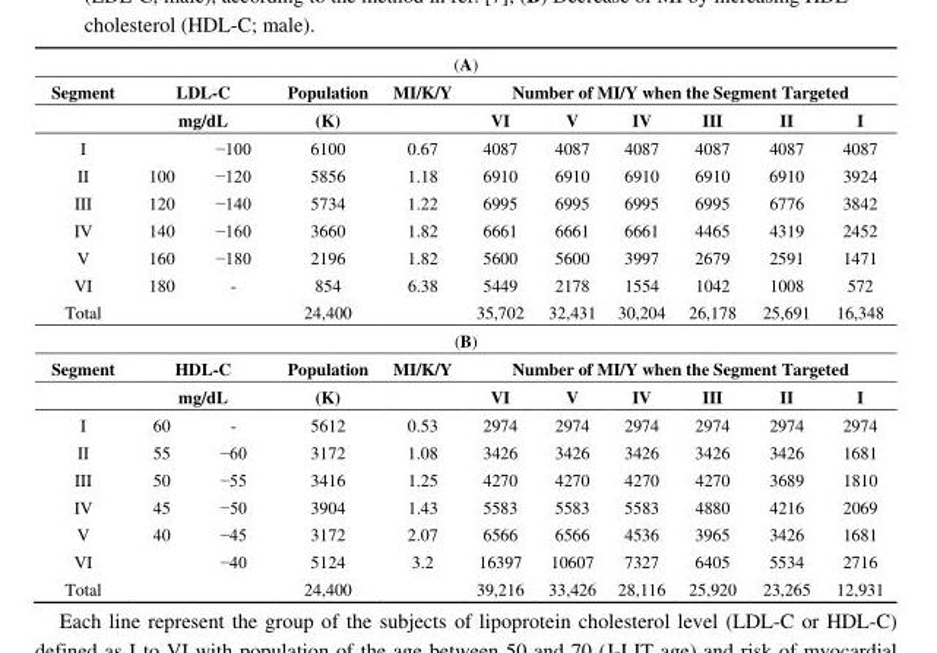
<table><thead><tr><td colspan="11">(A)</td></tr><tr><td rowspan="3">Segment I</td><td rowspan="2" colspan="2">LDL-C mg/dL</td><td rowspan="3">Population (K) 6100</td><td rowspan="3">MI/K/Y 0.67</td><td colspan="6">Number of MI/Y when the Segment Targeted</td></tr><tr><td rowspan="2">VI 4087</td><td rowspan="2">V 4087</td><td rowspan="2">IV 4087</td><td rowspan="2">III 4087</td><td rowspan="2">II 4087</td><td rowspan="2">I 4087</td></tr><tr><td></td><td>−100</td></tr></thead><tbody><tr><td>II</td><td>100</td><td>−120</td><td>5856</td><td>1.18</td><td>6910</td><td>6910</td><td>6910</td><td>6910</td><td>6910</td><td>3924</td></tr><tr><td>III</td><td>120</td><td>−140</td><td>5734</td><td>1.22</td><td>6995</td><td>6995</td><td>6995</td><td>6995</td><td>6776</td><td>3842</td></tr><tr><td>IV</td><td>140</td><td>−160</td><td>3660</td><td>1.82</td><td>6661</td><td>6661</td><td>6661</td><td>4465</td><td>4319</td><td>2452</td></tr><tr><td>V</td><td>160</td><td>−180</td><td>2196</td><td>1.82</td><td>5600</td><td>5600</td><td>3997</td><td>2679</td><td>2591</td><td>1471</td></tr><tr><td>VI</td><td>180</td><td>-</td><td>854</td><td>6.38</td><td>5449</td><td>2178</td><td>1554</td><td>1042</td><td>1008</td><td>572</td></tr><tr><td>Total</td><td></td><td></td><td>24,400</td><td></td><td>35,702</td><td>32,431</td><td>30,204</td><td>26,178</td><td>25,691</td><td>16,348</td></tr><tr><td colspan="11">(B)</td></tr><tr><td rowspan="2">Segment</td><td colspan="2">HDL-C</td><td>Population</td><td>MI/K/Y</td><td colspan="6">Number of MI/Y when the Segment Targeted</td></tr><tr><td colspan="2">mg/dL</td><td>(K)</td><td></td><td>VI</td><td>V</td><td>IV</td><td>III</td><td>II</td><td>I</td></tr><tr><td>I</td><td>60</td><td>-</td><td>5612</td><td>0.53</td><td>2974</td><td>2974</td><td>2974</td><td>2974</td><td>2974</td><td>2974</td></tr><tr><td>II</td><td>55</td><td>−60</td><td>3172</td><td>1.08</td><td>3426</td><td>3426</td><td>3426</td><td>3426</td><td>3426</td><td>1681</td></tr><tr><td>III</td><td>50</td><td>−55</td><td>3416</td><td>1.25</td><td>4270</td><td>4270</td><td>4270</td><td>4270</td><td>3689</td><td>1810</td></tr><tr><td>IV</td><td>45</td><td>−50</td><td>3904</td><td>1.43</td><td>5583</td><td>5583</td><td>5583</td><td>4880</td><td>4216</td><td>2069</td></tr><tr><td>V</td><td>40</td><td>−45</td><td>3172</td><td>2.07</td><td>6566</td><td>6566</td><td>4536</td><td>3965</td><td>3426</td><td>1681</td></tr><tr><td>VI</td><td></td><td>−40</td><td>5124</td><td>3.2</td><td>16397</td><td>10607</td><td>7327</td><td>6405</td><td>5534</td><td>2716</td></tr><tr><td>Total</td><td></td><td></td><td>24,400</td><td></td><td>39,216</td><td>33,426</td><td>28,116</td><td>25,920</td><td>23,265</td><td>12,931</td></tr></tbody></table>